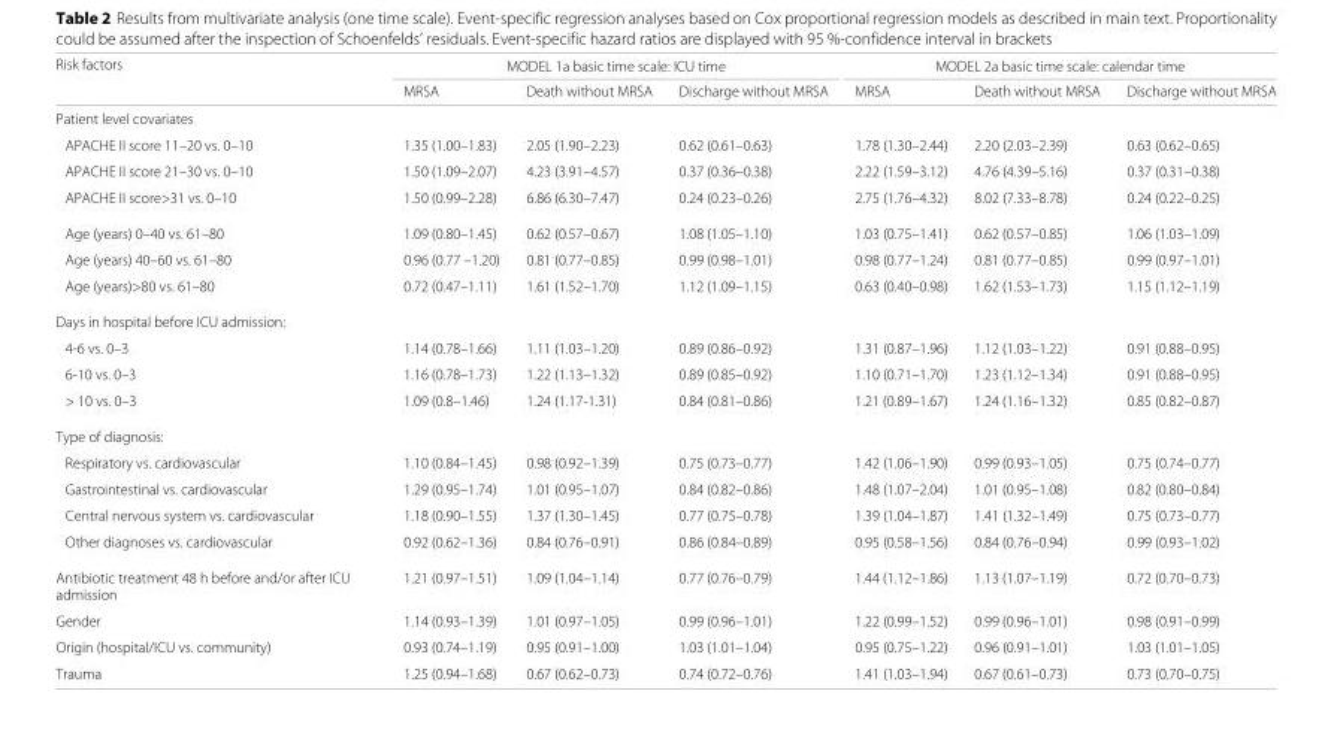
<table><thead><tr><td rowspan="2">Risk factors</td><td colspan="3">MODEL 1a basic time scale: ICU time</td><td colspan="3">MODEL 2a basic time scale: calendar time</td></tr><tr><td>MRSA</td><td>Death without MRSA</td><td>Discharge without MRSA</td><td>MRSA</td><td>Death without MRSA</td><td>Discharge without MRSA</td></tr></thead><tbody><tr><td colspan="7">Patient level covariates</td></tr><tr><td>APACHE II score 11–20 vs. 0–10</td><td>1.35 (1.00–1.83)</td><td>2.05 (1.90–2.23)</td><td>0.62 (0.61–0.63)</td><td>1.78 (1.30–2.44)</td><td>2.20 (2.03–2.39)</td><td>0.63 (0.62–0.65)</td></tr><tr><td>APACHE II score 21–30 vs. 0–10</td><td>1.50 (1.09–2.07)</td><td>4.23 (3.91–4.57)</td><td>0.37 (0.36–0.38)</td><td>2.22 (1.59–3.12)</td><td>4.76 (4.39–5.16)</td><td>0.37 (0.31–0.38)</td></tr><tr><td>APACHE II score&gt;31 vs. 0–10</td><td>1.50 (0.99–2.28)</td><td>6.86 (6.30–7.47)</td><td>0.24 (0.23–0.26)</td><td>2.75 (1.76–4.32)</td><td>8.02 (7.33–8.78)</td><td>0.24 (0.22–0.25)</td></tr><tr><td>Age (years) 0–40 vs. 61–80</td><td>1.09 (0.80–1.45)</td><td>0.62 (0.57–0.67)</td><td>1.08 (1.05–1.10)</td><td>1.03 (0.75–1.41)</td><td>0.62 (0.57–0.85)</td><td>1.06 (1.03–1.09)</td></tr><tr><td>Age (years) 40–60 vs. 61–80</td><td>0.96 (0.77 –1.20)</td><td>0.81 (0.77–0.85)</td><td>0.99 (0.98–1.01)</td><td>0.98 (0.77–1.24)</td><td>0.81 (0.77–0.85)</td><td>0.99 (0.97–1.01)</td></tr><tr><td>Age (years)&gt;80 vs. 61–80</td><td>0.72 (0.47–1.11)</td><td>1.61 (1.52–1.70)</td><td>1.12 (1.09–1.15)</td><td>0.63 (0.40–0.98)</td><td>1.62 (1.53–1.73)</td><td>1.15 (1.12–1.19)</td></tr><tr><td colspan="7">Days in hospital before ICU admission:</td></tr><tr><td>4-6 vs. 0–3</td><td>1.14 (0.78–1.66)</td><td>1.11 (1.03–1.20)</td><td>0.89 (0.86–0.92)</td><td>1.31 (0.87–1.96)</td><td>1.12 (1.03–1.22)</td><td>0.91 (0.88–0.95)</td></tr><tr><td>6-10 vs. 0–3</td><td>1.16 (0.78–1.73)</td><td>1.22 (1.13–1.32)</td><td>0.89 (0.85–0.92)</td><td>1.10 (0.71–1.70)</td><td>1.23 (1.12–1.34)</td><td>0.91 (0.88–0.95)</td></tr><tr><td>&gt; 10 vs. 0–3</td><td>1.09 (0.8–1.46)</td><td>1.24 (1.17-1.31)</td><td>0.84 (0.81–0.86)</td><td>1.21 (0.89–1.67)</td><td>1.24 (1.16–1.32)</td><td>0.85 (0.82–0.87)</td></tr><tr><td colspan="7">Type of diagnosis:</td></tr><tr><td>Respiratory vs. cardiovascular</td><td>1.10 (0.84–1.45)</td><td>0.98 (0.92–1.39)</td><td>0.75 (0.73–0.77)</td><td>1.42 (1.06–1.90)</td><td>0.99 (0.93–1.05)</td><td>0.75 (0.74–0.77)</td></tr><tr><td>Gastrointestinal vs. cardiovascular</td><td>1.29 (0.95–1.74)</td><td>1.01 (0.95–1.07)</td><td>0.84 (0.82–0.86)</td><td>1.48 (1.07–2.04)</td><td>1.01 (0.95–1.08)</td><td>0.82 (0.80–0.84)</td></tr><tr><td>Central nervous system vs. cardiovascular</td><td>1.18 (0.90–1.55)</td><td>1.37 (1.30–1.45)</td><td>0.77 (0.75–0.78)</td><td>1.39 (1.04–1.87)</td><td>1.41 (1.32–1.49)</td><td>0.75 (0.73–0.77)</td></tr><tr><td>Other diagnoses vs. cardiovascular</td><td>0.92 (0.62–1.36)</td><td>0.84 (0.76–0.91)</td><td>0.86 (0.84–0.89)</td><td>0.95 (0.58–1.56)</td><td>0.84 (0.76–0.94)</td><td>0.99 (0.93–1.02)</td></tr><tr><td>Antibiotic treatment 48 h before and/or after ICU admission</td><td>1.21 (0.97–1.51)</td><td>1.09 (1.04–1.14)</td><td>0.77 (0.76–0.79)</td><td>1.44 (1.12–1.86)</td><td>1.13 (1.07–1.19)</td><td>0.72 (0.70–0.73)</td></tr><tr><td>Gender</td><td>1.14 (0.93–1.39)</td><td>1.01 (0.97–1.05)</td><td>0.99 (0.96–1.01)</td><td>1.22 (0.99–1.52)</td><td>0.99 (0.96–1.01)</td><td>0.98 (0.91–0.99)</td></tr><tr><td>Origin (hospital/ICU vs. community)</td><td>0.93 (0.74–1.19)</td><td>0.95 (0.91–1.00)</td><td>1.03 (1.01–1.04)</td><td>0.95 (0.75–1.22)</td><td>0.96 (0.91–1.01)</td><td>1.03 (1.01–1.05)</td></tr><tr><td>Trauma</td><td>1.25 (0.94–1.68)</td><td>0.67 (0.62–0.73)</td><td>0.74 (0.72–0.76)</td><td>1.41 (1.03–1.94)</td><td>0.67 (0.61–0.73)</td><td>0.73 (0.70–0.75)</td></tr></tbody></table>